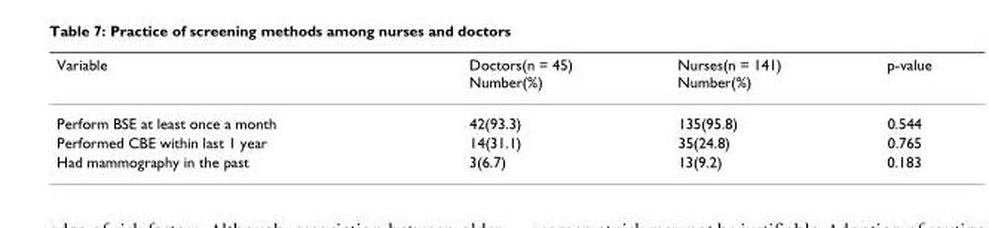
<table><thead><tr><td>Variable</td><td>Doctors(n = 45) Number(%)</td><td>Nurses(n = 141) Number(%)</td><td>p-value</td></tr></thead><tbody><tr><td>Perform BSE at least once a month</td><td>42(93.3)</td><td>135(95.8)</td><td>0.544</td></tr><tr><td>Performed CBE within last 1 year</td><td>14(31.1)</td><td>35(24.8)</td><td>0.765</td></tr><tr><td>Had mammography in the past</td><td>3(6.7)</td><td>13(9.2)</td><td>0.183</td></tr></tbody></table>